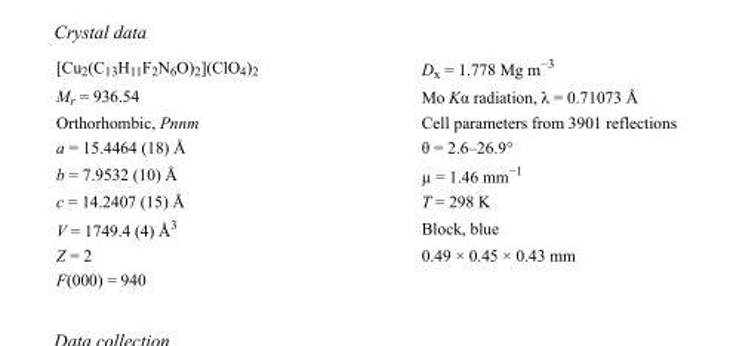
<table><tbody><tr><td>[Cu<sub>2</sub>(C<sub>13</sub>H<sub>11</sub>F<sub>2</sub>N<sub>6</sub>O)<sub>2</sub>](ClO<sub>4</sub>)<sub>2</sub></td><td>D<sub>x</sub> = 1.778 Mg m<sup>−3</sup></td></tr><tr><td>M<sub>r</sub> = 936.54</td><td>Mo Kα radiation, λ = 0.71073 Å</td></tr><tr><td>Orthorhombic, Pnnm</td><td>Cell parameters from 3901 reflections</td></tr><tr><td>a = 15.4464 (18) Å</td><td>θ = 2.6–26.9°</td></tr><tr><td>b = 7.9532 (10) Å</td><td>µ = 1.46 mm<sup>−1</sup></td></tr><tr><td>c = 14.2407 (15) Å</td><td>T = 298 K</td></tr><tr><td>V = 1749.4 (4) Å<sup>3</sup></td><td>Block, blue</td></tr><tr><td>Z = 2</td><td>0.49 × 0.45 × 0.43 mm</td></tr><tr><td>F(000) = 940</td><td></td></tr></tbody></table>